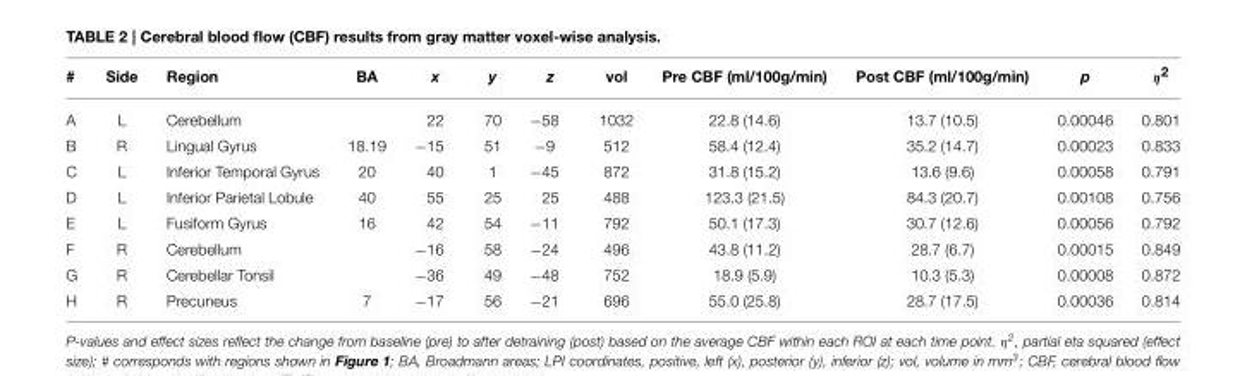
<table><thead><tr><td>#</td><td>Side</td><td>Region</td><td>BA</td><td>x</td><td>y</td><td>z</td><td>vol</td><td>Pre CBF (ml/100g/min)</td><td>Post CBF (ml/100g/min)</td><td>p</td><td>η<sup>2</sup></td></tr></thead><tbody><tr><td>A</td><td>L</td><td>Cerebellum</td><td></td><td>22</td><td>70</td><td>−58</td><td>1032</td><td>22.8 (14.6)</td><td>13.7 (10.5)</td><td>0.00046</td><td>0.801</td></tr><tr><td>B</td><td>R</td><td>Lingual Gyrus</td><td>18.19</td><td>−15</td><td>51</td><td>−9</td><td>512</td><td>58.4 (12.4)</td><td>35.2 (14.7)</td><td>0.00023</td><td>0.833</td></tr><tr><td>C</td><td>L</td><td>Inferior Temporal Gyrus</td><td>20</td><td>40</td><td>1</td><td>−45</td><td>872</td><td>31.8 (15.2)</td><td>13.6 (9.6)</td><td>0.00058</td><td>0.791</td></tr><tr><td>D</td><td>L</td><td>Inferior Parietal Lobule</td><td>40</td><td>55</td><td>25</td><td>25</td><td>488</td><td>123.3 (21.5)</td><td>84.3 (20.7)</td><td>0.00108</td><td>0.756</td></tr><tr><td>E</td><td>L</td><td>Fusiform Gyrus</td><td>16</td><td>42</td><td>54</td><td>−11</td><td>792</td><td>50.1 (17.3)</td><td>30.7 (12.6)</td><td>0.00056</td><td>0.792</td></tr><tr><td>F</td><td>R</td><td>Cerebellum</td><td></td><td>−16</td><td>58</td><td>−24</td><td>496</td><td>43.8 (11.2)</td><td>28.7 (6.7)</td><td>0.00015</td><td>0.849</td></tr><tr><td>G</td><td>R</td><td>Cerebellar Tonsil</td><td></td><td>−36</td><td>49</td><td>−48</td><td>752</td><td>18.9 (5.9)</td><td>10.3 (5.3)</td><td>0.00008</td><td>0.872</td></tr><tr><td>H</td><td>R</td><td>Precuneus</td><td>7</td><td>−17</td><td>56</td><td>−21</td><td>696</td><td>55.0 (25.8)</td><td>28.7 (17.5)</td><td>0.00036</td><td>0.814</td></tr></tbody></table>